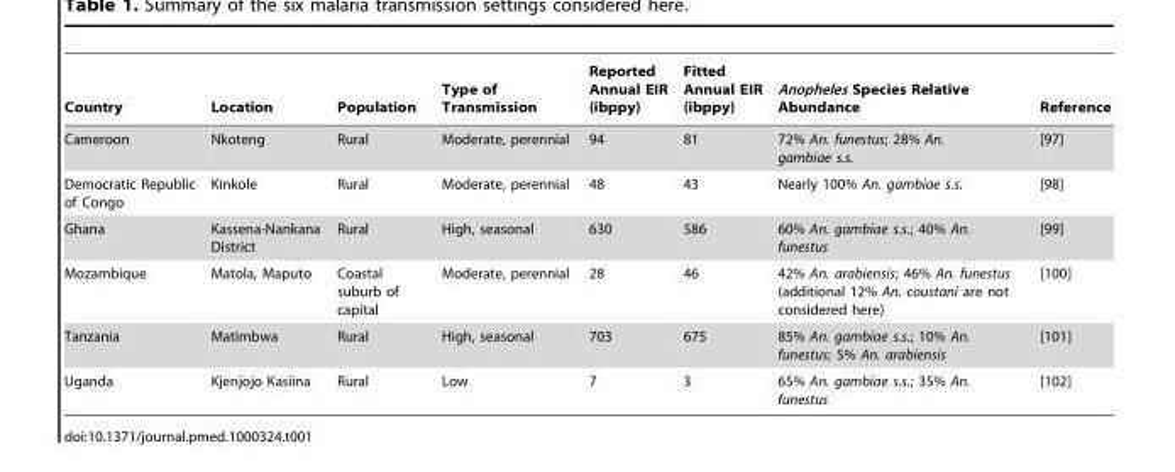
<table><thead><tr><td>Country</td><td>Location</td><td>Population</td><td>Type of Transmission</td><td>Reported Annual EIR (ibppy)</td><td>Fitted Annual EIR (ibppy)</td><td>Anopheles Species Relative Abundance</td><td>Reference</td></tr></thead><tbody><tr><td>Cameroon</td><td>Nkoteng</td><td>Rural</td><td>Moderate, perennial</td><td>94</td><td>81</td><td>72% An. funestus; 28% An. gambiae s.s.</td><td>[97]</td></tr><tr><td>Democratic Republic of Congo</td><td>Kinkole</td><td>Rural</td><td>Moderate, perennial</td><td>48</td><td>43</td><td>Nearly 100% An. gambiae s.s.</td><td>[98]</td></tr><tr><td>Ghana</td><td>Kassena-Nankana District</td><td>Rural</td><td>High, seasonal</td><td>630</td><td>586</td><td>60% An. gambiae s.s.; 40% An. funestus</td><td>[99]</td></tr><tr><td>Mozambique</td><td>Matola, Maputo</td><td>Coastal suburb of capital</td><td>Moderate, perennial</td><td>28</td><td>46</td><td>42% An. arabiensis; 46% An. funestus (additional 12% An. coustani are not considered here)</td><td>[100]</td></tr><tr><td>Tanzania</td><td>Matimbwa</td><td>Rural</td><td>High, seasonal</td><td>703</td><td>675</td><td>85% An. gambiae s.s.; 10% An. funestus; 5% An. arabiensis</td><td>[101]</td></tr><tr><td>Uganda</td><td>Kjenjojo Kasiina</td><td>Rural</td><td>Low</td><td>7</td><td>3</td><td>65% An. gambiae s.s.; 35% An. funestus</td><td>[102]</td></tr></tbody></table>